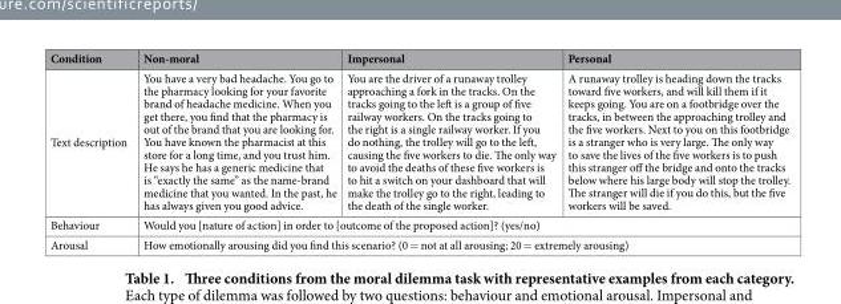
<table><thead><tr><td>Condition</td><td>Non-moral</td><td>Impersonal</td><td>Personal</td></tr></thead><tbody><tr><td>Text description</td><td>You have a very bad headache. You go to the pharmacy looking for your favorite brand of headache medicine. When you get there, you find that the pharmacy is out of the brand that you are looking for. You have known the pharmacist at this store for a long time, and you trust him. He says he has a generic medicine that is “exactly the same” as the name-brand medicine that you wanted. In the past, he has always given you good advice.</td><td>You are the driver of a runaway trolley approaching a fork in the tracks. On the tracks going to the left is a group of five railway workers. On the tracks going to the right is a single railway worker. If you do nothing, the trolley will go to the left, causing the five workers to die. The only way to avoid the deaths of these five workers is to hit a switch on your dashboard that will make the trolley go to the right, leading to the death of the single worker.</td><td>A runaway trolley is heading down the tracks toward five workers, and will kill them if it keeps going. You are on a footbridge over the tracks, in between the approaching trolley and the five workers. Next to you on this footbridge is a stranger who is very large. The only way to save the lives of the five workers is to push this stranger off the bridge and onto the tracks below where his large body will stop the trolley. The stranger will die if you do this, but the five workers will be saved.</td></tr><tr><td>Behaviour</td><td colspan="3">Would you [nature of action] in order to [outcome of the proposed action]? (yes/no)</td></tr><tr><td>Arousal</td><td colspan="3">How emotionally arousing did you find this scenario? (0 = not at all arousing; 20 = extremely arousing)</td></tr></tbody></table>